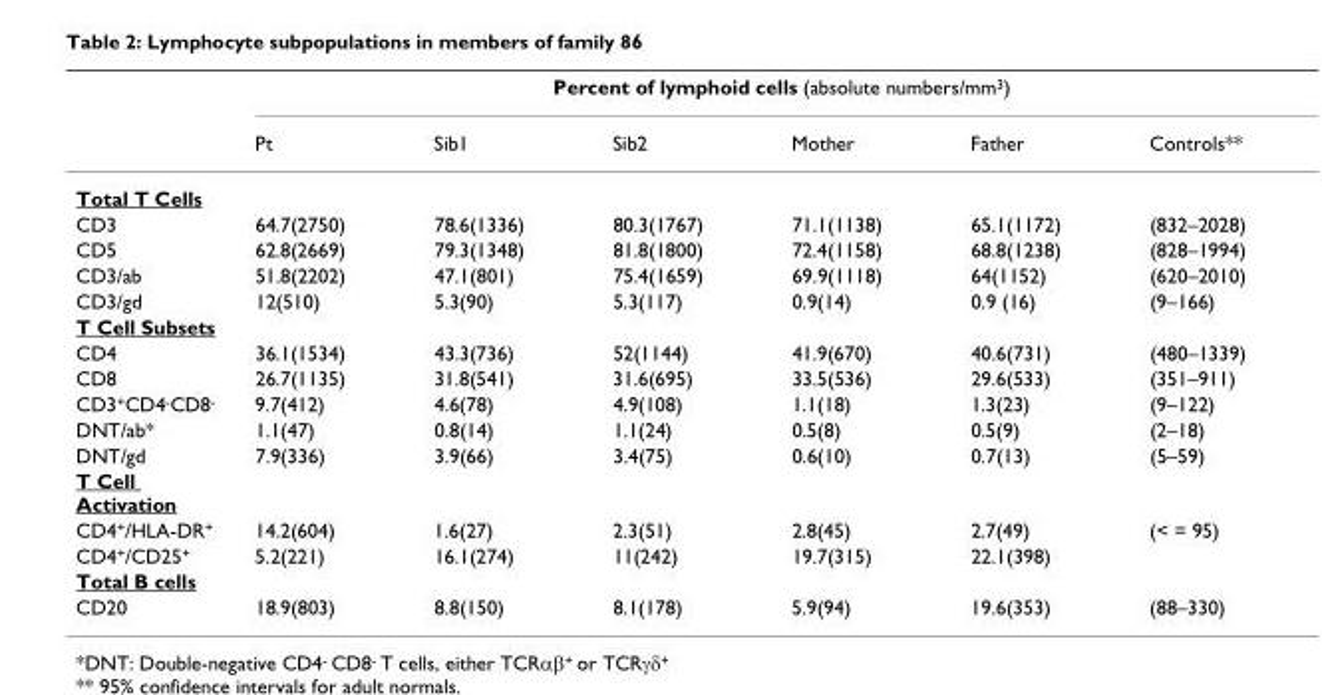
<table><thead><tr><td rowspan="2"></td><td colspan="6">Percent of lymphoid cells (absolute numbers/mm<sup>3</sup>)</td></tr><tr><td>Pt</td><td>Sib1</td><td>Sib2</td><td>Mother</td><td>Father</td><td>Controls**</td></tr></thead><tbody><tr><td colspan="7">Total T Cells</td></tr><tr><td>CD3</td><td>64.7(2750)</td><td>78.6(1336)</td><td>80.3(1767)</td><td>71.1(1138)</td><td>65.1(1172)</td><td>(832–2028)</td></tr><tr><td>CD5</td><td>62.8(2669)</td><td>79.3(1348)</td><td>81.8(1800)</td><td>72.4(1158)</td><td>68.8(1238)</td><td>(828–1994)</td></tr><tr><td>CD3/ab</td><td>51.8(2202)</td><td>47.1(801)</td><td>75.4(1659)</td><td>69.9(1118)</td><td>64(1152)</td><td>(620–2010)</td></tr><tr><td>CD3/gd</td><td>12(510)</td><td>5.3(90)</td><td>5.3(117)</td><td>0.9(14)</td><td>0.9 (16)</td><td>(9–166)</td></tr><tr><td colspan="7">T Cell Subsets</td></tr><tr><td>CD4</td><td>36.1(1534)</td><td>43.3(736)</td><td>52(1144)</td><td>41.9(670)</td><td>40.6(731)</td><td>(480–1339)</td></tr><tr><td>CD8</td><td>26.7(1135)</td><td>31.8(541)</td><td>31.6(695)</td><td>33.5(536)</td><td>29.6(533)</td><td>(351–911)</td></tr><tr><td>CD3<sup>+</sup>CD4<sup>-</sup>CD8<sup>-</sup></td><td>9.7(412)</td><td>4.6(78)</td><td>4.9(108)</td><td>1.1(18)</td><td>1.3(23)</td><td>(9–122)</td></tr><tr><td>DNT/ab*</td><td>1.1(47)</td><td>0.8(14)</td><td>1.1(24)</td><td>0.5(8)</td><td>0.5(9)</td><td>(2–18)</td></tr><tr><td>DNT/gd</td><td>7.9(336)</td><td>3.9(66)</td><td>3.4(75)</td><td>0.6(10)</td><td>0.7(13)</td><td>(5–59)</td></tr><tr><td colspan="7">T Cell Activation</td></tr><tr><td>CD4<sup>+</sup>/HLA-DR<sup>+</sup></td><td>14.2(604)</td><td>1.6(27)</td><td>2.3(51)</td><td>2.8(45)</td><td>2.7(49)</td><td>(&lt; = 95)</td></tr><tr><td>CD4<sup>+</sup>/CD25<sup>+</sup></td><td>5.2(221)</td><td>16.1(274)</td><td>11(242)</td><td>19.7(315)</td><td>22.1(398)</td><td></td></tr><tr><td colspan="7">Total B cells</td></tr><tr><td>CD20</td><td>18.9(803)</td><td>8.8(150)</td><td>8.1(178)</td><td>5.9(94)</td><td>19.6(353)</td><td>(88–330)</td></tr></tbody></table>